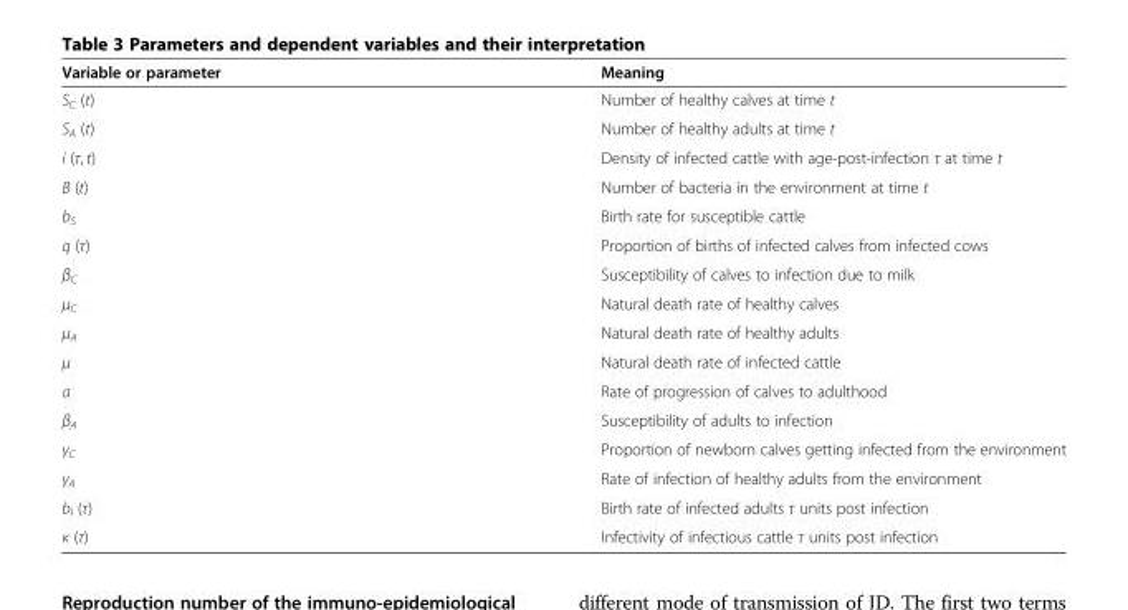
<table><thead><tr><td>Variable or parameter</td><td>Meaning</td></tr></thead><tbody><tr><td>S<sub>C</sub> (t)</td><td>Number of healthy calves at time t</td></tr><tr><td>S<sub>A</sub> (t)</td><td>Number of healthy adults at time t</td></tr><tr><td>i (τ, t)</td><td>Density of infected cattle with age-post-infection τ at time t</td></tr><tr><td>B (t)</td><td>Number of bacteria in the environment at time t</td></tr><tr><td>b<sub>S</sub></td><td>Birth rate for susceptible cattle</td></tr><tr><td>q (τ)</td><td>Proportion of births of infected calves from infected cows</td></tr><tr><td>β<sub>C</sub></td><td>Susceptibility of calves to infection due to milk</td></tr><tr><td>μ<sub>C</sub></td><td>Natural death rate of healthy calves</td></tr><tr><td>μ<sub>A</sub></td><td>Natural death rate of healthy adults</td></tr><tr><td>μ</td><td>Natural death rate of infected cattle</td></tr><tr><td>a</td><td>Rate of progression of calves to adulthood</td></tr><tr><td>β<sub>A</sub></td><td>Susceptibility of adults to infection</td></tr><tr><td>γ<sub>C</sub></td><td>Proportion of newborn calves getting infected from the environment</td></tr><tr><td>γ<sub>A</sub></td><td>Rate of infection of healthy adults from the environment</td></tr><tr><td>b<sub>I</sub> (τ)</td><td>Birth rate of infected adults τ units post infection</td></tr><tr><td>κ (τ)</td><td>Infectivity of infectious cattle τ units post infection</td></tr></tbody></table>